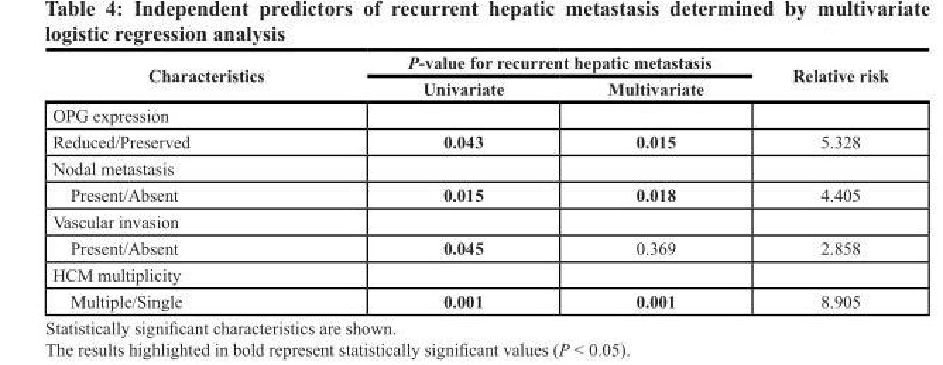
<table><thead><tr><td rowspan="2">Characteristics</td><td colspan="2">P-value for recurrent hepatic metastasis</td><td rowspan="2">Relative risk</td></tr><tr><td>Univariate</td><td>Multivariate</td></tr></thead><tbody><tr><td colspan="4">OPG expression</td></tr><tr><td>Reduced/Preserved</td><td>0.043</td><td>0.015</td><td>5.328</td></tr><tr><td colspan="4">Nodal metastasis</td></tr><tr><td>Present/Absent</td><td>0.015</td><td>0.018</td><td>4.405</td></tr><tr><td colspan="4">Vascular invasion</td></tr><tr><td>Present/Absent</td><td>0.045</td><td>0.369</td><td>2.858</td></tr><tr><td colspan="4">HCM multiplicity</td></tr><tr><td>Multiple/Single</td><td>0.001</td><td>0.001</td><td>8.905</td></tr></tbody></table>